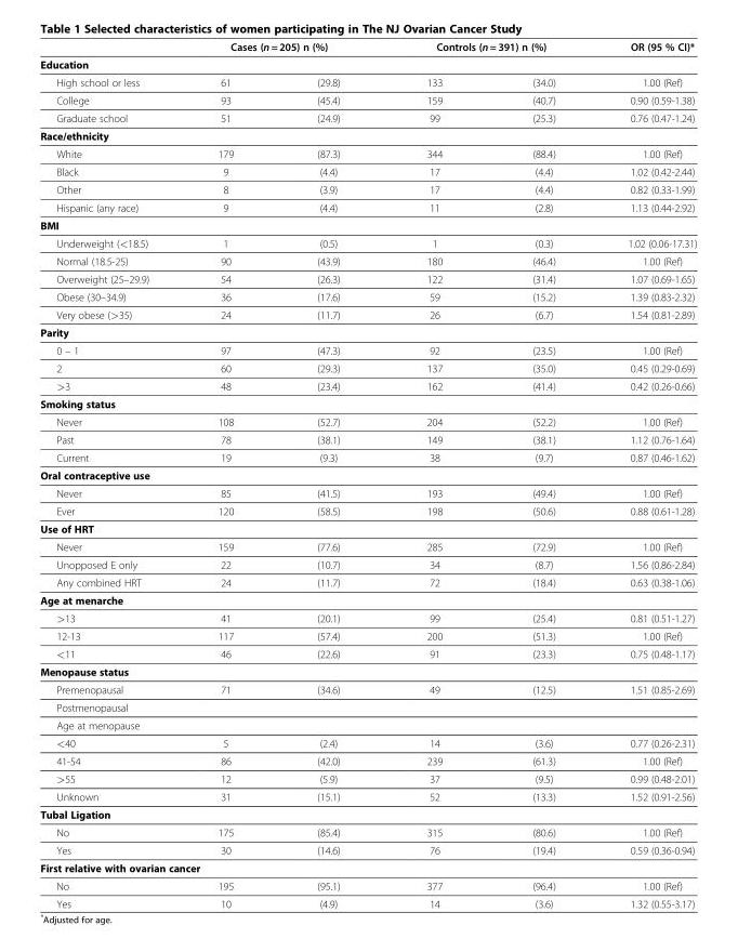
<table><thead><tr><td></td><td colspan="2">Cases (n = 205) n (%)</td><td colspan="2">Controls (n = 391) n (%)</td><td>OR (95 % CI)*</td></tr><tr><td colspan="6">Education</td></tr><tr><td>High school or less</td><td>61</td><td>(29.8)</td><td>133</td><td>(34.0)</td><td>1.00 (Ref)</td></tr></thead><tbody><tr><td>College</td><td>93</td><td>(45.4)</td><td>159</td><td>(40.7)</td><td>0.90 (0.59-1.38)</td></tr><tr><td>Graduate school</td><td>51</td><td>(24.9)</td><td>99</td><td>(25.3)</td><td>0.76 (0.47-1.24)</td></tr><tr><td colspan="6">Race/ethnicity</td></tr><tr><td>White</td><td>179</td><td>(87.3)</td><td>344</td><td>(88.4)</td><td>1.00 (Ref)</td></tr><tr><td>Black</td><td>9</td><td>(4.4)</td><td>17</td><td>(4.4)</td><td>1.02 (0.42-2.44)</td></tr><tr><td>Other</td><td>8</td><td>(3.9)</td><td>17</td><td>(4.4)</td><td>0.82 (0.33-1.99)</td></tr><tr><td>Hispanic (any race)</td><td>9</td><td>(4.4)</td><td>11</td><td>(2.8)</td><td>1.13 (0.44-2.92)</td></tr><tr><td colspan="6">BMI</td></tr><tr><td>Underweight (&lt;18.5)</td><td>1</td><td>(0.5)</td><td>1</td><td>(0.3)</td><td>1.02 (0.06-17.31)</td></tr><tr><td>Normal (18.5-25)</td><td>90</td><td>(43.9)</td><td>180</td><td>(46.4)</td><td>1.00 (Ref)</td></tr><tr><td>Overweight (25–29.9)</td><td>54</td><td>(26.3)</td><td>122</td><td>(31.4)</td><td>1.07 (0.69-1.65)</td></tr><tr><td>Obese (30–34.9)</td><td>36</td><td>(17.6)</td><td>59</td><td>(15.2)</td><td>1.39 (0.83-2.32)</td></tr><tr><td>Very obese (&gt;35)</td><td>24</td><td>(11.7)</td><td>26</td><td>(6.7)</td><td>1.54 (0.81-2.89)</td></tr><tr><td colspan="6">Parity</td></tr><tr><td>0 – 1</td><td>97</td><td>(47.3)</td><td>92</td><td>(23.5)</td><td>1.00 (Ref)</td></tr><tr><td>2</td><td>60</td><td>(29.3)</td><td>137</td><td>(35.0)</td><td>0.45 (0.29-0.69)</td></tr><tr><td>&gt;3</td><td>48</td><td>(23.4)</td><td>162</td><td>(41.4)</td><td>0.42 (0.26-0.66)</td></tr><tr><td colspan="6">Smoking status</td></tr><tr><td>Never</td><td>108</td><td>(52.7)</td><td>204</td><td>(52.2)</td><td>1.00 (Ref)</td></tr><tr><td>Past</td><td>78</td><td>(38.1)</td><td>149</td><td>(38.1)</td><td>1.12 (0.76-1.64)</td></tr><tr><td>Current</td><td>19</td><td>(9.3)</td><td>38</td><td>(9.7)</td><td>0.87 (0.46-1.62)</td></tr><tr><td colspan="6">Oral contraceptive use</td></tr><tr><td>Never</td><td>85</td><td>(41.5)</td><td>193</td><td>(49.4)</td><td>1.00 (Ref)</td></tr><tr><td>Ever</td><td>120</td><td>(58.5)</td><td>198</td><td>(50.6)</td><td>0.88 (0.61-1.28)</td></tr><tr><td colspan="6">Use of HRT</td></tr><tr><td>Never</td><td>159</td><td>(77.6)</td><td>285</td><td>(72.9)</td><td>1.00 (Ref)</td></tr><tr><td>Unopposed E only</td><td>22</td><td>(10.7)</td><td>34</td><td>(8.7)</td><td>1.56 (0.86-2.84)</td></tr><tr><td>Any combined HRT</td><td>24</td><td>(11.7)</td><td>72</td><td>(18.4)</td><td>0.63 (0.38-1.06)</td></tr><tr><td colspan="6">Age at menarche</td></tr><tr><td>&gt;13</td><td>41</td><td>(20.1)</td><td>99</td><td>(25.4)</td><td>0.81 (0.51-1.27)</td></tr><tr><td>12-13</td><td>117</td><td>(57.4)</td><td>200</td><td>(51.3)</td><td>1.00 (Ref)</td></tr><tr><td>&lt;11</td><td>46</td><td>(22.6)</td><td>91</td><td>(23.3)</td><td>0.75 (0.48-1.17)</td></tr><tr><td colspan="6">Menopause status</td></tr><tr><td>Premenopausal</td><td>71</td><td>(34.6)</td><td>49</td><td>(12.5)</td><td>1.51 (0.85-2.69)</td></tr><tr><td colspan="6">Postmenopausal</td></tr><tr><td colspan="6">Age at menopause</td></tr><tr><td>&lt;40</td><td>5</td><td>(2.4)</td><td>14</td><td>(3.6)</td><td>0.77 (0.26-2.31)</td></tr><tr><td>41-54</td><td>86</td><td>(42.0)</td><td>239</td><td>(61.3)</td><td>1.00 (Ref)</td></tr><tr><td>&gt;55</td><td>12</td><td>(5.9)</td><td>37</td><td>(9.5)</td><td>0.99 (0.48-2.01)</td></tr><tr><td>Unknown</td><td>31</td><td>(15.1)</td><td>52</td><td>(13.3)</td><td>1.52 (0.91-2.56)</td></tr><tr><td colspan="6">Tubal Ligation</td></tr><tr><td>No</td><td>175</td><td>(85.4)</td><td>315</td><td>(80.6)</td><td>1.00 (Ref)</td></tr><tr><td>Yes</td><td>30</td><td>(14.6)</td><td>76</td><td>(19.4)</td><td>0.59 (0.36-0.94)</td></tr><tr><td colspan="6">First relative with ovarian cancer</td></tr><tr><td>No</td><td>195</td><td>(95.1)</td><td>377</td><td>(96.4)</td><td>1.00 (Ref)</td></tr><tr><td>Yes</td><td>10</td><td>(4.9)</td><td>14</td><td>(3.6)</td><td>1.32 (0.55-3.17)</td></tr></tbody></table>